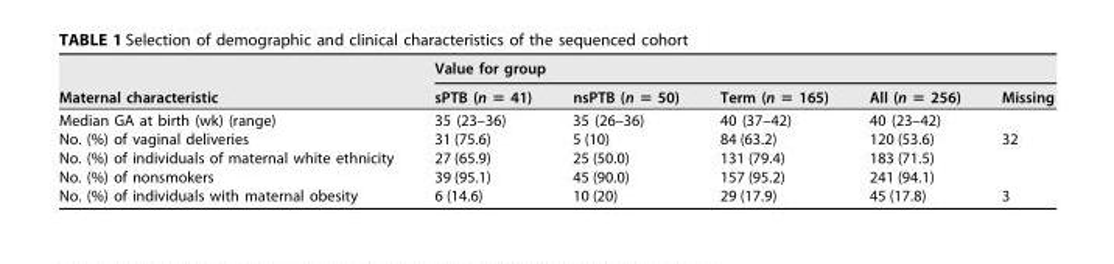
<table><thead><tr><td rowspan="2">Maternal characteristic</td><td colspan="5">Value for group</td></tr><tr><td>sPTB (n = 41)</td><td>nsPTB (n = 50)</td><td>Term (n = 165)</td><td>All (n = 256)</td><td>Missing</td></tr></thead><tbody><tr><td>Median GA at birth (wk) (range)</td><td>35 (23–36)</td><td>35 (26–36)</td><td>40 (37–42)</td><td>40 (23–42)</td><td></td></tr><tr><td>No. (%) of vaginal deliveries</td><td>31 (75.6)</td><td>5 (10)</td><td>84 (63.2)</td><td>120 (53.6)</td><td>32</td></tr><tr><td>No. (%) of individuals of maternal white ethnicity</td><td>27 (65.9)</td><td>25 (50.0)</td><td>131 (79.4)</td><td>183 (71.5)</td><td></td></tr><tr><td>No. (%) of nonsmokers</td><td>39 (95.1)</td><td>45 (90.0)</td><td>157 (95.2)</td><td>241 (94.1)</td><td></td></tr><tr><td>No. (%) of individuals with maternal obesity</td><td>6 (14.6)</td><td>10 (20)</td><td>29 (17.9)</td><td>45 (17.8)</td><td>3</td></tr></tbody></table>